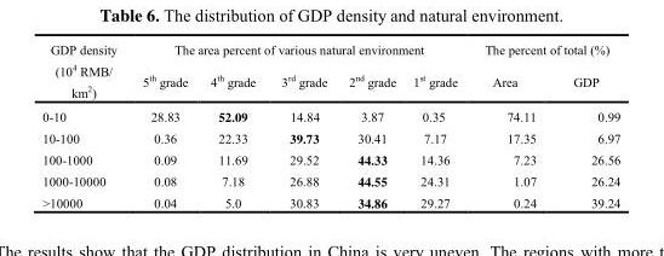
<table><thead><tr><td rowspan="2">GDP density (10<sup>4</sup> RMB/ km<sup>2</sup>)</td><td colspan="5">The area percent of various natural environment</td><td colspan="2">The percent of total (%)</td></tr><tr><td>5<sup>th</sup> grade</td><td>4<sup>th</sup> grade</td><td>3<sup>rd</sup> grade</td><td>2<sup>nd</sup> grade</td><td>1<sup>st</sup> grade</td><td>Area</td><td>GDP</td></tr></thead><tbody><tr><td>0-10</td><td>28.83</td><td>52.09</td><td>14.84</td><td>3.87</td><td>0.35</td><td>74.11</td><td>0.99</td></tr><tr><td>10-100</td><td>0.36</td><td>22.33</td><td>39.73</td><td>30.41</td><td>7.17</td><td>17.35</td><td>6.97</td></tr><tr><td>100-1000</td><td>0.09</td><td>11.69</td><td>29.52</td><td>44.33</td><td>14.36</td><td>7.23</td><td>26.56</td></tr><tr><td>1000-10000</td><td>0.08</td><td>7.18</td><td>26.88</td><td>44.55</td><td>24.31</td><td>1.07</td><td>26.24</td></tr><tr><td>&gt;10000</td><td>0.04</td><td>5.0</td><td>30.83</td><td>34.86</td><td>29.27</td><td>0.24</td><td>39.24</td></tr></tbody></table>